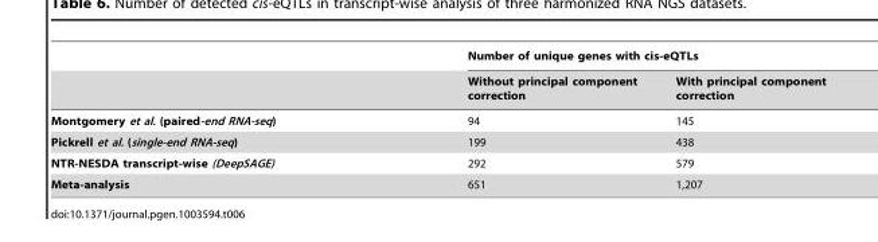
<table><thead><tr><td rowspan="2"></td><td colspan="2">Number of unique genes with cis-eQTLs</td></tr><tr><td>Without principal component correction</td><td>With principal component correction</td></tr></thead><tbody><tr><td>Montgomery et al. (paired-end RNA-seq)</td><td>94</td><td>145</td></tr><tr><td>Pickrell et al. (single-end RNA-seq)</td><td>199</td><td>438</td></tr><tr><td>NTR-NESDA transcript-wise (DeepSAGE)</td><td>292</td><td>579</td></tr><tr><td>Meta-analysis</td><td>651</td><td>1,207</td></tr></tbody></table>